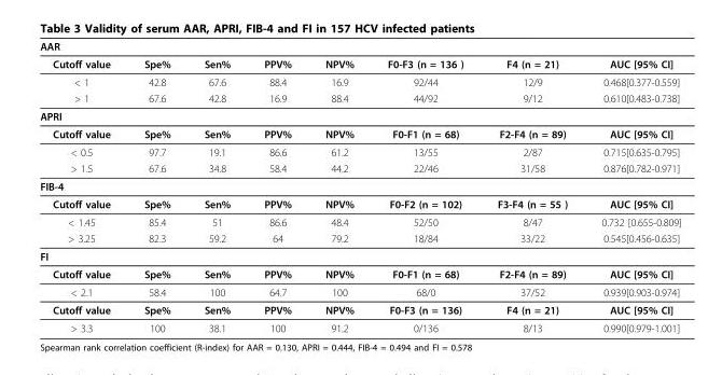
<table><thead><tr><td colspan="8">AAR</td></tr><tr><td>Cutoff value</td><td>Spe%</td><td>Sen%</td><td>PPV%</td><td>NPV%</td><td>F0-F3 (n = 136 )</td><td>F4 (n = 21)</td><td>AUC [95% CI]</td></tr></thead><tbody><tr><td>&lt; 1</td><td>42.8</td><td>67.6</td><td>88.4</td><td>16.9</td><td>92/44</td><td>12/9</td><td>0.468[0.377-0.559]</td></tr><tr><td>&gt; 1</td><td>67.6</td><td>42.8</td><td>16.9</td><td>88.4</td><td>44/92</td><td>9/12</td><td>0.610[0.483-0.738]</td></tr><tr><td colspan="8">APRI</td></tr><tr><td>Cutoff value</td><td>Spe%</td><td>Sen%</td><td>PPV%</td><td>NPV%</td><td>F0-F1 (n = 68)</td><td>F2-F4 (n = 89)</td><td>AUC [95% CI]</td></tr><tr><td>&lt; 0.5</td><td>97.7</td><td>19.1</td><td>86.6</td><td>61.2</td><td>13/55</td><td>2/87</td><td>0.715[0.635-0.795]</td></tr><tr><td>&gt; 1.5</td><td>67.6</td><td>34.8</td><td>58.4</td><td>44.2</td><td>22/46</td><td>31/58</td><td>0.876[0.782-0.971]</td></tr><tr><td colspan="8">FIB-4</td></tr><tr><td>Cutoff value</td><td>Spe%</td><td>Sen%</td><td>PPV%</td><td>NPV%</td><td>F0-F2 (n = 102)</td><td>F3-F4 (n = 55 )</td><td>AUC [95% CI]</td></tr><tr><td>&lt; 1.45</td><td>85.4</td><td>51</td><td>86.6</td><td>48.4</td><td>52/50</td><td>8/47</td><td>0.732 [0.655-0.809]</td></tr><tr><td>&gt; 3.25</td><td>82.3</td><td>59.2</td><td>64</td><td>79.2</td><td>18/84</td><td>33/22</td><td>0.545[0.456-0.635]</td></tr><tr><td colspan="8">FI</td></tr><tr><td>Cutoff value</td><td>Spe%</td><td>Sen%</td><td>PPV%</td><td>NPV%</td><td>F0-F1 (n = 68)</td><td>F2-F4 (n = 89)</td><td>AUC [95% CI]</td></tr><tr><td>&lt; 2.1</td><td>58.4</td><td>100</td><td>64.7</td><td>100</td><td>68/0</td><td>37/52</td><td>0.939[0.903-0.974]</td></tr><tr><td>Cutoff value</td><td>Spe%</td><td>Sen%</td><td>PPV%</td><td>NPV%</td><td>F0-F3 (n = 136)</td><td>F4 (n = 21)</td><td>AUC [95% CI]</td></tr><tr><td>&gt; 3.3</td><td>100</td><td>38.1</td><td>100</td><td>91.2</td><td>0/136</td><td>8/13</td><td>0.990[0.979-1.001]</td></tr></tbody></table>